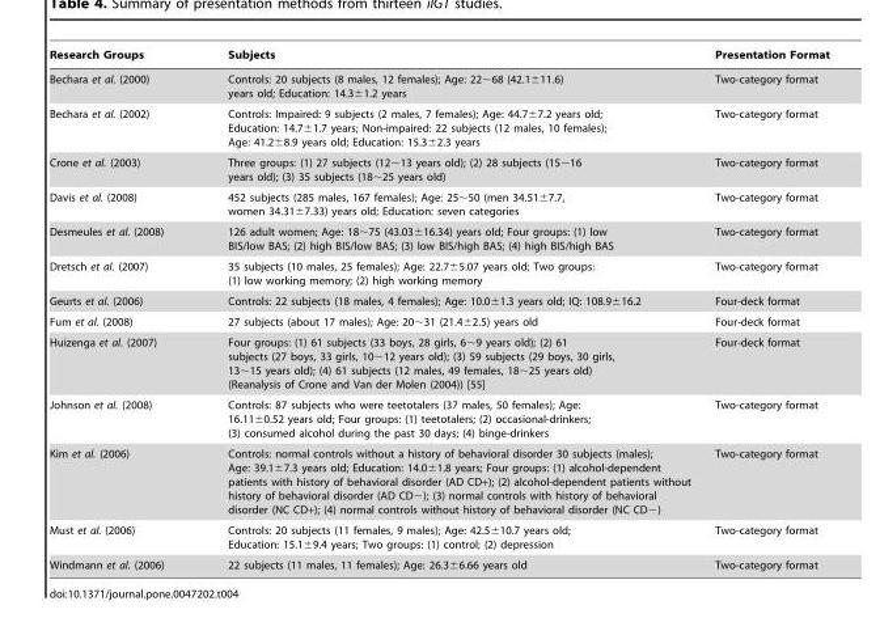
<table><thead><tr><td>Research Groups</td><td>Subjects</td><td>Presentation Format</td></tr></thead><tbody><tr><td>Bechara et al. (2000)</td><td>Controls: 20 subjects (8 males, 12 females); Age: 22∼68 (42.1±11.6) years old; Education: 14.3±1.2 years</td><td>Two-category format</td></tr><tr><td>Bechara et al. (2002)</td><td>Controls: Impaired: 9 subjects (2 males, 7 females); Age: 44.7±7.2 years old; Education: 14.7±1.7 years; Non-impaired: 22 subjects (12 males, 10 females); Age: 41.2±8.9 years old; Education: 15.3±2.3 years</td><td>Two-category format</td></tr><tr><td>Crone et al. (2003)</td><td>Three groups: (1) 27 subjects (12∼13 years old); (2) 28 subjects (15∼16 years old); (3) 35 subjects (18∼25 years old)</td><td>Two-category format</td></tr><tr><td>Davis et al. (2008)</td><td>452 subjects (285 males, 167 females); Age: 25∼50 (men 34.51±7.7, women 34.31±7.33) years old; Education: seven categories</td><td>Two-category format</td></tr><tr><td>Desmeules et al. (2008)</td><td>126 adult women; Age: 18∼75 (43.03±16.34) years old; Four groups: (1) low BIS/low BAS; (2) high BIS/low BAS; (3) low BIS/high BAS; (4) high BIS/high BAS</td><td>Two-category format</td></tr><tr><td>Dretsch et al. (2007)</td><td>35 subjects (10 males, 25 females); Age: 22.7±5.07 years old; Two groups: (1) low working memory; (2) high working memory</td><td>Two-category format</td></tr><tr><td>Geurts et al. (2006)</td><td>Controls: 22 subjects (18 males, 4 females); Age: 10.0±1.3 years old; IQ: 108.9±16.2</td><td>Four-deck format</td></tr><tr><td>Fum et al. (2008)</td><td>27 subjects (about 17 males); Age: 20∼31 (21.4±2.5) years old</td><td>Four-deck format</td></tr><tr><td>Huizenga et al. (2007)</td><td>Four groups: (1) 61 subjects (33 boys, 28 girls, 6∼9 years old); (2) 61 subjects (27 boys, 33 girls, 10∼12 years old); (3) 59 subjects (29 boys, 30 girls, 13∼15 years old); (4) 61 subjects (12 males, 49 females, 18∼25 years old) (Reanalysis of Crone and Van der Molen (2004)) [55]</td><td>Four-deck format</td></tr><tr><td>Johnson et al. (2008)</td><td>Controls: 87 subjects who were teetotalers (37 males, 50 females); Age: 16.11±0.52 years old; Four groups: (1) teetotalers; (2) occasional-drinkers; (3) consumed alcohol during the past 30 days; (4) binge-drinkers</td><td>Two-category format</td></tr><tr><td>Kim et al. (2006)</td><td>Controls: normal controls without a history of behavioral disorder 30 subjects (males); Age: 39.1±7.3 years old; Education: 14.0±1.8 years; Four groups: (1) alcohol-dependent patients with history of behavioral disorder (AD CD+); (2) alcohol-dependent patients without history of behavioral disorder (AD CD−); (3) normal controls with history of behavioral disorder (NC CD+); (4) normal controls without history of behavioral disorder (NC CD−)</td><td>Two-category format</td></tr><tr><td>Must et al. (2006)</td><td>Controls: 20 subjects (11 females, 9 males); Age: 42.5±10.7 years old; Education: 15.1±9.4 years; Two groups: (1) control; (2) depression</td><td>Two-category format</td></tr><tr><td>Windmann et al. (2006)</td><td>22 subjects (11 males, 11 females); Age: 26.3±6.66 years old</td><td>Two-category format</td></tr></tbody></table>